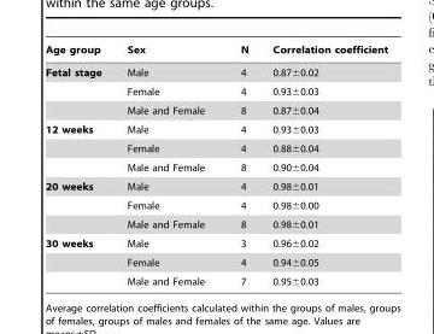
<table><thead><tr><td>Age group</td><td>Sex</td><td>N</td><td>Correlation coefficient</td></tr></thead><tbody><tr><td rowspan="3">Fetal stage</td><td>Male</td><td>4</td><td>0.87±0.02</td></tr><tr><td>Female</td><td>4</td><td>0.93±0.03</td></tr><tr><td>Male and Female</td><td>8</td><td>0.87±0.04</td></tr><tr><td rowspan="3">12 weeks</td><td>Male</td><td>4</td><td>0.93±0.03</td></tr><tr><td>Female</td><td>4</td><td>0.88±0.04</td></tr><tr><td>Male and Female</td><td>8</td><td>0.90±0.04</td></tr><tr><td rowspan="3">20 weeks</td><td>Male</td><td>4</td><td>0.98±0.01</td></tr><tr><td>Female</td><td>4</td><td>0.98±0.00</td></tr><tr><td>Male and Female</td><td>8</td><td>0.98±0.01</td></tr><tr><td rowspan="3">30 weeks</td><td>Male</td><td>3</td><td>0.96±0.02</td></tr><tr><td>Female</td><td>4</td><td>0.94±0.05</td></tr><tr><td>Male and Female</td><td>7</td><td>0.95±0.03</td></tr></tbody></table>